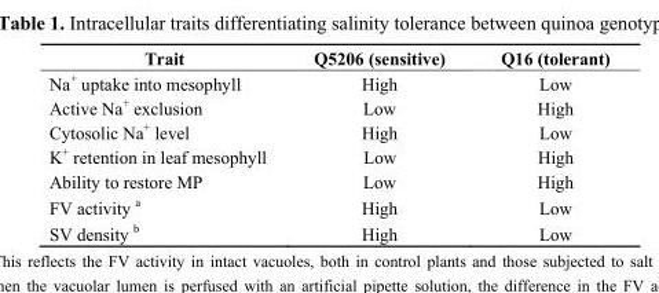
<table><thead><tr><td>Trait</td><td>Q5206 (sensitive)</td><td>Q16 (tolerant)</td></tr></thead><tbody><tr><td>Na<sup>+</sup> uptake into mesophyll</td><td>High</td><td>Low</td></tr><tr><td>Active Na<sup>+</sup> exclusion</td><td>Low</td><td>High</td></tr><tr><td>Cytosolic Na<sup>+</sup> level</td><td>High</td><td>Low</td></tr><tr><td>K<sup>+</sup> retention in leaf mesophyll</td><td>Low</td><td>High</td></tr><tr><td>Ability to restore MP</td><td>Low</td><td>High</td></tr><tr><td>FV activity a</td><td>High</td><td>Low</td></tr><tr><td>SV density b</td><td>High</td><td>Low</td></tr></tbody></table>